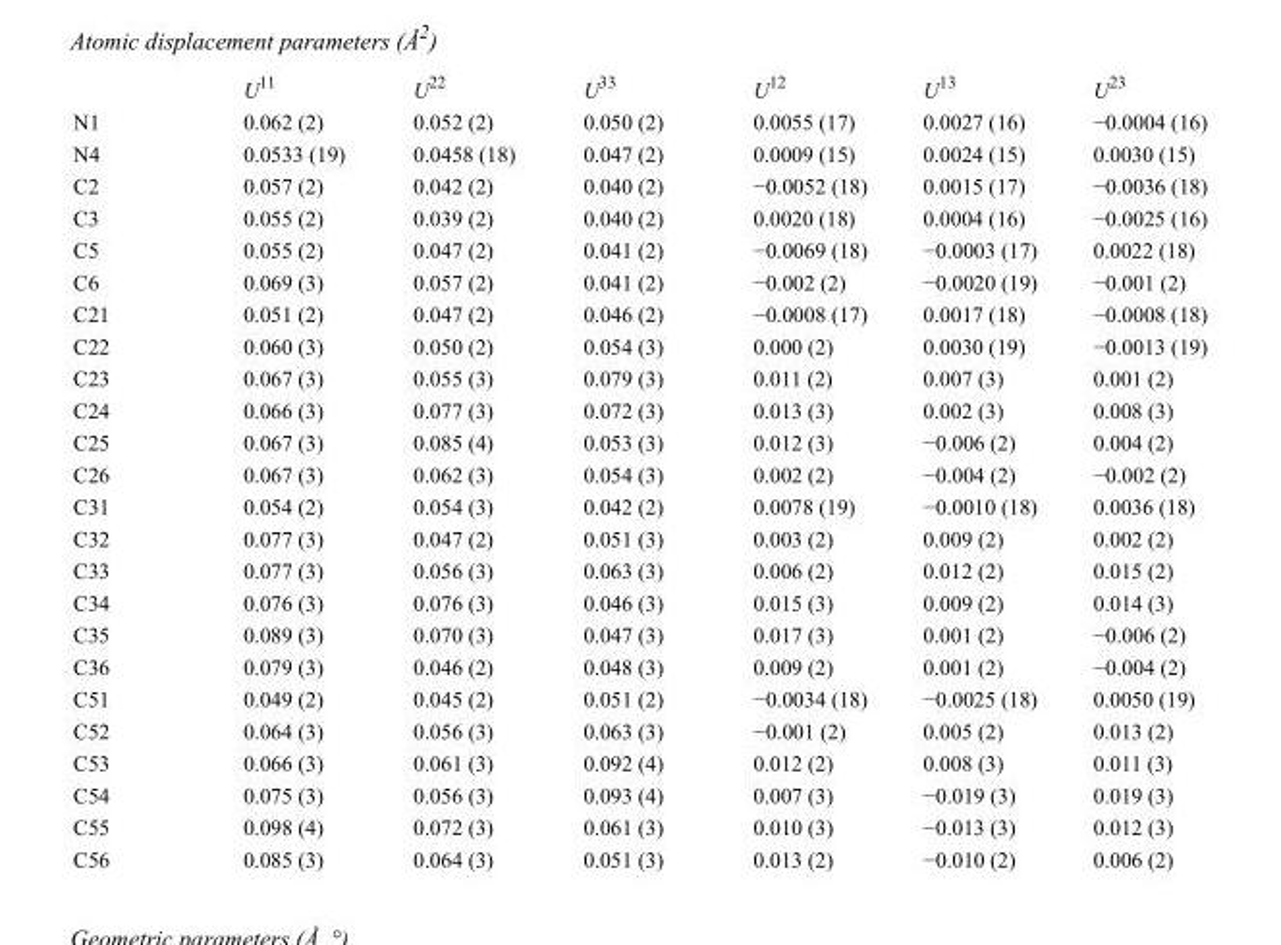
<table><thead><tr><td></td><td>U<sup>11</sup></td><td>U<sup>22</sup></td><td>U<sup>33</sup></td><td>U<sup>12</sup></td><td>U<sup>13</sup></td><td>U<sup>23</sup></td></tr></thead><tbody><tr><td>N1</td><td>0.062 (2)</td><td>0.052 (2)</td><td>0.050 (2)</td><td>0.0055 (17)</td><td>0.0027 (16)</td><td>−0.0004 (16)</td></tr><tr><td>N4</td><td>0.0533 (19)</td><td>0.0458 (18)</td><td>0.047 (2)</td><td>0.0009 (15)</td><td>0.0024 (15)</td><td>0.0030 (15)</td></tr><tr><td>C2</td><td>0.057 (2)</td><td>0.042 (2)</td><td>0.040 (2)</td><td>−0.0052 (18)</td><td>0.0015 (17)</td><td>−0.0036 (18)</td></tr><tr><td>C3</td><td>0.055 (2)</td><td>0.039 (2)</td><td>0.040 (2)</td><td>0.0020 (18)</td><td>0.0004 (16)</td><td>−0.0025 (16)</td></tr><tr><td>C5</td><td>0.055 (2)</td><td>0.047 (2)</td><td>0.041 (2)</td><td>−0.0069 (18)</td><td>−0.0003 (17)</td><td>0.0022 (18)</td></tr><tr><td>C6</td><td>0.069 (3)</td><td>0.057 (2)</td><td>0.041 (2)</td><td>−0.002 (2)</td><td>−0.0020 (19)</td><td>−0.001 (2)</td></tr><tr><td>C21</td><td>0.051 (2)</td><td>0.047 (2)</td><td>0.046 (2)</td><td>−0.0008 (17)</td><td>0.0017 (18)</td><td>−0.0008 (18)</td></tr><tr><td>C22</td><td>0.060 (3)</td><td>0.050 (2)</td><td>0.054 (3)</td><td>0.000 (2)</td><td>0.0030 (19)</td><td>−0.0013 (19)</td></tr><tr><td>C23</td><td>0.067 (3)</td><td>0.055 (3)</td><td>0.079 (3)</td><td>0.011 (2)</td><td>0.007 (3)</td><td>0.001 (2)</td></tr><tr><td>C24</td><td>0.066 (3)</td><td>0.077 (3)</td><td>0.072 (3)</td><td>0.013 (3)</td><td>0.002 (3)</td><td>0.008 (3)</td></tr><tr><td>C25</td><td>0.067 (3)</td><td>0.085 (4)</td><td>0.053 (3)</td><td>0.012 (3)</td><td>−0.006 (2)</td><td>0.004 (2)</td></tr><tr><td>C26</td><td>0.067 (3)</td><td>0.062 (3)</td><td>0.054 (3)</td><td>0.002 (2)</td><td>−0.004 (2)</td><td>−0.002 (2)</td></tr><tr><td>C31</td><td>0.054 (2)</td><td>0.054 (3)</td><td>0.042 (2)</td><td>0.0078 (19)</td><td>−0.0010 (18)</td><td>0.0036 (18)</td></tr><tr><td>C32</td><td>0.077 (3)</td><td>0.047 (2)</td><td>0.051 (3)</td><td>0.003 (2)</td><td>0.009 (2)</td><td>0.002 (2)</td></tr><tr><td>C33</td><td>0.077 (3)</td><td>0.056 (3)</td><td>0.063 (3)</td><td>0.006 (2)</td><td>0.012 (2)</td><td>0.015 (2)</td></tr><tr><td>C34</td><td>0.076 (3)</td><td>0.076 (3)</td><td>0.046 (3)</td><td>0.015 (3)</td><td>0.009 (2)</td><td>0.014 (3)</td></tr><tr><td>C35</td><td>0.089 (3)</td><td>0.070 (3)</td><td>0.047 (3)</td><td>0.017 (3)</td><td>0.001 (2)</td><td>−0.006 (2)</td></tr><tr><td>C36</td><td>0.079 (3)</td><td>0.046 (2)</td><td>0.048 (3)</td><td>0.009 (2)</td><td>0.001 (2)</td><td>−0.004 (2)</td></tr><tr><td>C51</td><td>0.049 (2)</td><td>0.045 (2)</td><td>0.051 (2)</td><td>−0.0034 (18)</td><td>−0.0025 (18)</td><td>0.0050 (19)</td></tr><tr><td>C52</td><td>0.064 (3)</td><td>0.056 (3)</td><td>0.063 (3)</td><td>−0.001 (2)</td><td>0.005 (2)</td><td>0.013 (2)</td></tr><tr><td>C53</td><td>0.066 (3)</td><td>0.061 (3)</td><td>0.092 (4)</td><td>0.012 (2)</td><td>0.008 (3)</td><td>0.011 (3)</td></tr><tr><td>C54</td><td>0.075 (3)</td><td>0.056 (3)</td><td>0.093 (4)</td><td>0.007 (3)</td><td>−0.019 (3)</td><td>0.019 (3)</td></tr><tr><td>C55</td><td>0.098 (4)</td><td>0.072 (3)</td><td>0.061 (3)</td><td>0.010 (3)</td><td>−0.013 (3)</td><td>0.012 (3)</td></tr><tr><td>C56</td><td>0.085 (3)</td><td>0.064 (3)</td><td>0.051 (3)</td><td>0.013 (2)</td><td>−0.010 (2)</td><td>0.006 (2)</td></tr></tbody></table>